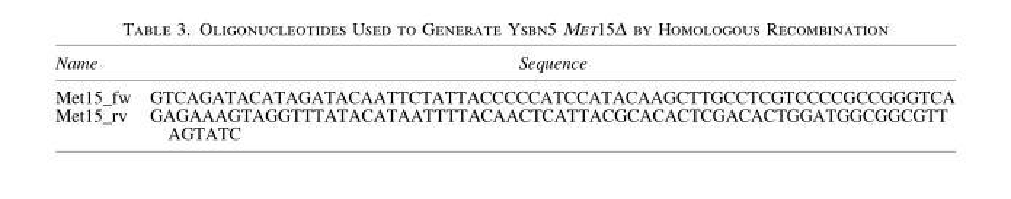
<table><thead><tr><td>Name</td><td>Sequence</td></tr></thead><tbody><tr><td>Met15_fw</td><td>GTCAGATACATAGATACAATTCTATTACCCCCATCCATACAAGCTTGCCTCGTCCCCGCCGGGTCA</td></tr><tr><td>Met15_rv</td><td>GAGAAAGTAGGTTTATACATAATTTTACAACTCATTACGCACACTCGACACTGGATGGCGGCGTT AGTATC</td></tr></tbody></table>